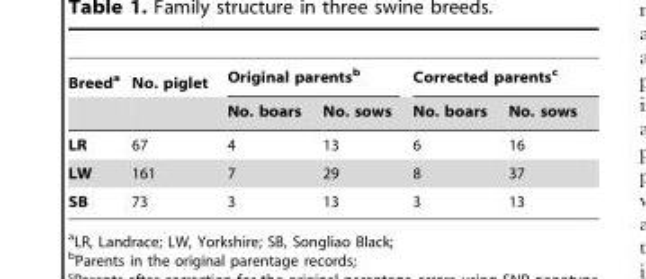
<table><thead><tr><td rowspan="2">Breed<sup>a</sup></td><td rowspan="2">No. piglet</td><td colspan="2">Original parents<sup>b</sup></td><td colspan="2">Corrected parents<sup>c</sup></td></tr><tr><td>No. boars</td><td>No. sows</td><td>No. boars</td><td>No. sows</td></tr></thead><tbody><tr><td>LR</td><td>67</td><td>4</td><td>13</td><td>6</td><td>16</td></tr><tr><td>LW</td><td>161</td><td>7</td><td>29</td><td>8</td><td>37</td></tr><tr><td>SB</td><td>73</td><td>3</td><td>13</td><td>3</td><td>13</td></tr></tbody></table>